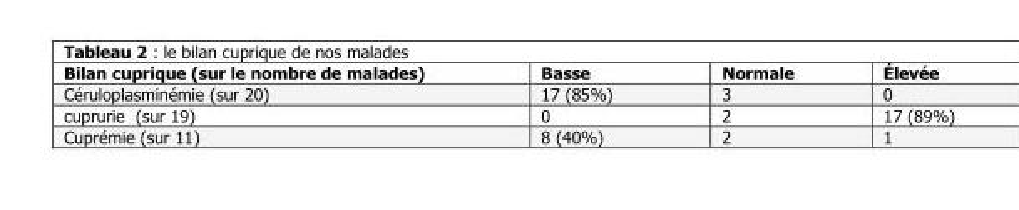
<table><thead><tr><td>Bilan cuprique (sur le nombre de malades)</td><td>Basse</td><td>Normale</td><td>Élevée</td></tr></thead><tbody><tr><td>Céruloplasminémie (sur 20)</td><td>17 (85%)</td><td>3</td><td>0</td></tr><tr><td>cuprurie (sur 19)</td><td>0</td><td>2</td><td>17 (89%)</td></tr><tr><td>Cuprémie (sur 11)</td><td>8 (40%)</td><td>2</td><td>1</td></tr></tbody></table>